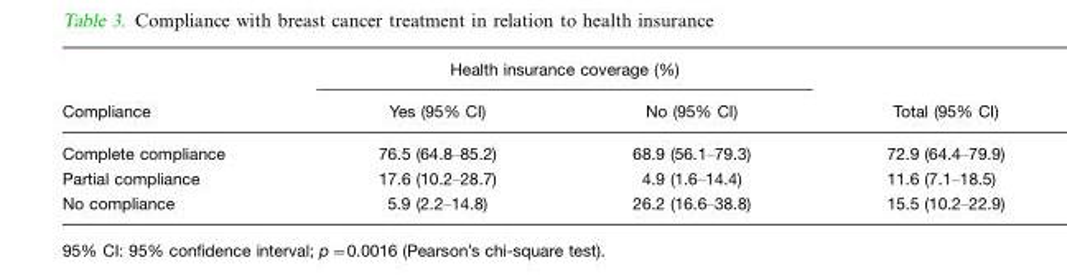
<table><thead><tr><td rowspan="2">Compliance</td><td colspan="2">Health insurance coverage (%)</td><td rowspan="2">Total (95% CI)</td></tr><tr><td>Yes (95% CI)</td><td>No (95% CI)</td></tr></thead><tbody><tr><td>Complete compliance</td><td>76.5 (64.8–85.2)</td><td>68.9 (56.1–79.3)</td><td>72.9 (64.4–79.9)</td></tr><tr><td>Partial compliance</td><td>17.6 (10.2–28.7)</td><td>4.9 (1.6–14.4)</td><td>11.6 (7.1–18.5)</td></tr><tr><td>No compliance</td><td>5.9 (2.2–14.8)</td><td>26.2 (16.6–38.8)</td><td>15.5 (10.2–22.9)</td></tr></tbody></table>